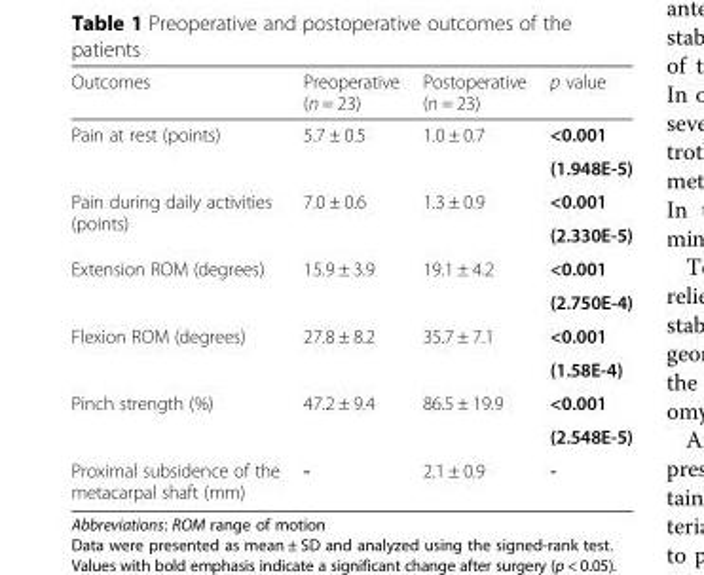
<table><thead><tr><td>Outcomes</td><td>Preoperative (n = 23)</td><td>Postoperative (n = 23)</td><td>p value</td></tr></thead><tbody><tr><td rowspan="2">Pain at rest (points)</td><td rowspan="2">5.7 ± 0.5</td><td rowspan="2">1.0 ± 0.7</td><td>&lt;0.001</td></tr><tr><td>(1.948E-5)</td></tr><tr><td rowspan="2">Pain during daily activities (points)</td><td rowspan="2">7.0 ± 0.6</td><td rowspan="2">1.3 ± 0.9</td><td>&lt;0.001</td></tr><tr><td>(2.330E-5)</td></tr><tr><td rowspan="2">Extension ROM (degrees)</td><td rowspan="2">15.9 ± 3.9</td><td rowspan="2">19.1 ± 4.2</td><td>&lt;0.001</td></tr><tr><td>(2.750E-4)</td></tr><tr><td rowspan="2">Flexion ROM (degrees)</td><td rowspan="2">27.8 ± 8.2</td><td rowspan="2">35.7 ± 7.1</td><td>&lt;0.001</td></tr><tr><td>(1.58E-4)</td></tr><tr><td rowspan="2">Pinch strength (%)</td><td rowspan="2">47.2 ± 9.4</td><td rowspan="2">86.5 ± 19.9</td><td>&lt;0.001</td></tr><tr><td>(2.548E-5)</td></tr><tr><td>Proximal subsidence of the metacarpal shaft (mm)</td><td>-</td><td>2.1 ± 0.9</td><td>-</td></tr></tbody></table>